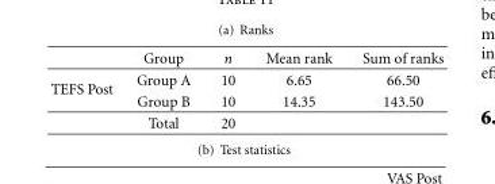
<table><thead><tr><td></td><td>Group</td><td>n</td><td>Mean rank</td><td>Sum of ranks</td></tr></thead><tbody><tr><td rowspan="3">TEFS Post</td><td>Group A</td><td>10</td><td>6.65</td><td>66.50</td></tr><tr><td>Group B</td><td>10</td><td>14.35</td><td>143.50</td></tr><tr><td>Total</td><td>20</td><td></td><td></td></tr></tbody></table>